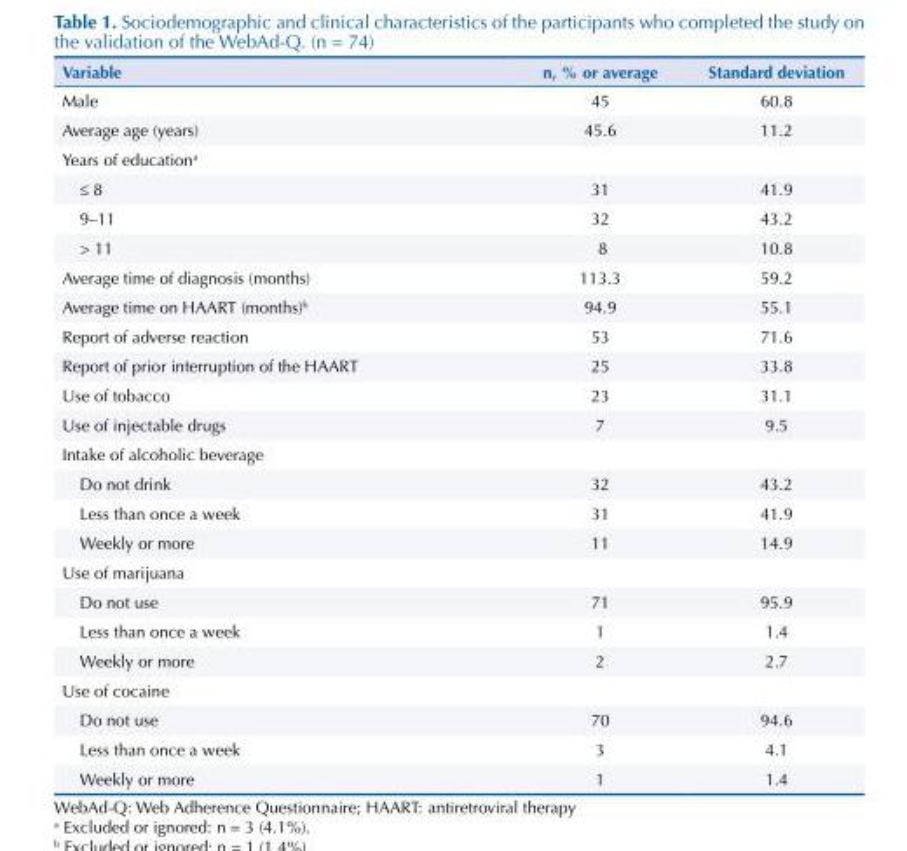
<table><thead><tr><td>Variable</td><td>n, % or average</td><td>Standard deviation</td></tr></thead><tbody><tr><td>Male</td><td>45</td><td>60.8</td></tr><tr><td>Average age (years)</td><td>45.6</td><td>11.2</td></tr><tr><td colspan="3">Years of education<sup>a</sup></td></tr><tr><td>≤ 8</td><td>31</td><td>41.9</td></tr><tr><td>9–11</td><td>32</td><td>43.2</td></tr><tr><td>&gt; 11</td><td>8</td><td>10.8</td></tr><tr><td>Average time of diagnosis (months)</td><td>113.3</td><td>59.2</td></tr><tr><td>Average time on HAART (months)<sup>b</sup></td><td>94.9</td><td>55.1</td></tr><tr><td>Report of adverse reaction</td><td>53</td><td>71.6</td></tr><tr><td>Report of prior interruption of the HAART</td><td>25</td><td>33.8</td></tr><tr><td>Use of tobacco</td><td>23</td><td>31.1</td></tr><tr><td>Use of injectable drugs</td><td>7</td><td>9.5</td></tr><tr><td colspan="3">Intake of alcoholic beverage</td></tr><tr><td>Do not drink</td><td>32</td><td>43.2</td></tr><tr><td>Less than once a week</td><td>31</td><td>41.9</td></tr><tr><td>Weekly or more</td><td>11</td><td>14.9</td></tr><tr><td colspan="3">Use of marijuana</td></tr><tr><td>Do not use</td><td>71</td><td>95.9</td></tr><tr><td>Less than once a week</td><td>1</td><td>1.4</td></tr><tr><td>Weekly or more</td><td>2</td><td>2.7</td></tr><tr><td colspan="3">Use of cocaine</td></tr><tr><td>Do not use</td><td>70</td><td>94.6</td></tr><tr><td>Less than once a week</td><td>3</td><td>4.1</td></tr><tr><td>Weekly or more</td><td>1</td><td>1.4</td></tr></tbody></table>